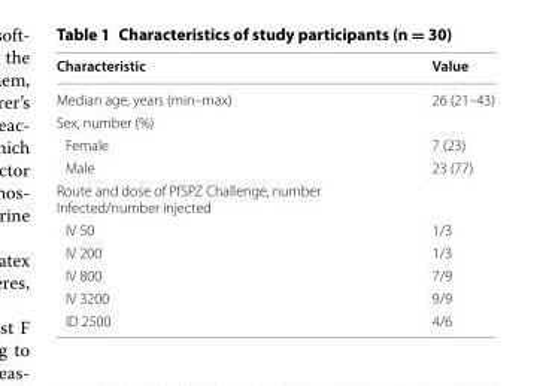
<table><thead><tr><td>Characteristic</td><td>Value</td></tr></thead><tbody><tr><td>Median age, years (min–max)</td><td>26 (21–43)</td></tr><tr><td colspan="2">Sex, number (%)</td></tr><tr><td>Female</td><td>7 (23)</td></tr><tr><td>Male</td><td>23 (77)</td></tr><tr><td colspan="2">Route and dose of PfSPZ Challenge, number Infected/number injected</td></tr><tr><td>IV 50</td><td>1/3</td></tr><tr><td>IV 200</td><td>1/3</td></tr><tr><td>IV 800</td><td>7/9</td></tr><tr><td>IV 3200</td><td>9/9</td></tr><tr><td>ID 2500</td><td>4/6</td></tr></tbody></table>